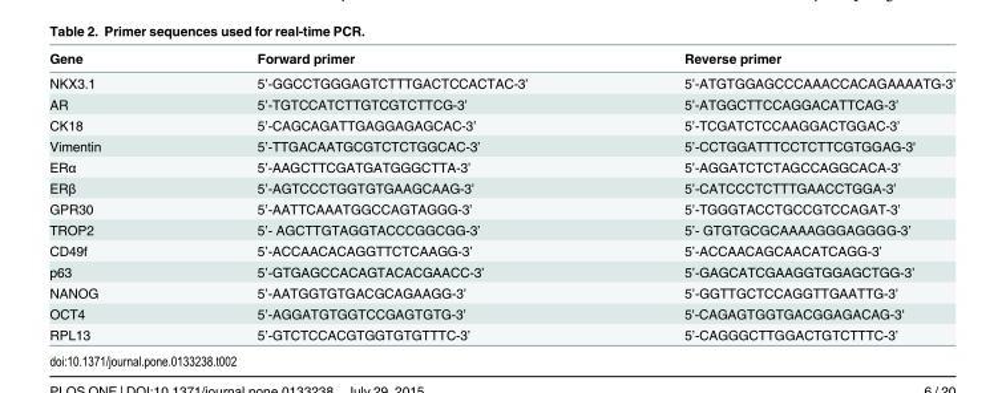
<table><thead><tr><td>Gene</td><td>Forward primer</td><td>Reverse primer</td></tr></thead><tbody><tr><td>NKX3.1</td><td>5’-GGCCTGGGAGTCTTTGACTCCACTAC-3’</td><td>5’-ATGTGGAGCCCAAACCACAGAAAATG-3’</td></tr><tr><td>AR</td><td>5’-TGTCCATCTTGTCGTCTTCG-3’</td><td>5’-ATGGCTTCCAGGACATTCAG-3’</td></tr><tr><td>CK18</td><td>5’-CAGCAGATTGAGGAGAGCAC-3’</td><td>5’-TCGATCTCCAAGGACTGGAC-3’</td></tr><tr><td>Vimentin</td><td>5’-TTGACAATGCGTCTCTGGCAC-3’</td><td>5’-CCTGGATTTCCTCTTCGTGGAG-3&#x27;</td></tr><tr><td>ERα</td><td>5’-AAGCTTCGATGATGGGCTTA-3’</td><td>5’-AGGATCTCTAGCCAGGCACA-3’</td></tr><tr><td>ERβ</td><td>5’-AGTCCCTGGTGTGAAGCAAG-3’</td><td>5’-CATCCCTCTTTGAACCTGGA-3’</td></tr><tr><td>GPR30</td><td>5’-AATTCAAATGGCCAGTAGGG-3’</td><td>5’-TGGGTACCTGCCGTCCAGAT-3’</td></tr><tr><td>TROP2</td><td>5’- AGCTTGTAGGTACCCGGCGG-3’</td><td>5’- GTGTGCGCAAAAGGGAGGGG-3’</td></tr><tr><td>CD49f</td><td>5’-ACCAACACAGGTTCTCAAGG-3’</td><td>5’-ACCAACAGCAACATCAGG-3’</td></tr><tr><td>p63</td><td>5’-GTGAGCCACAGTACACGAACC-3’</td><td>5’-GAGCATCGAAGGTGGAGCTGG-3’</td></tr><tr><td>NANOG</td><td>5’-AATGGTGTGACGCAGAAGG-3’</td><td>5’-GGTTGCTCCAGGTTGAATTG-3’</td></tr><tr><td>OCT4</td><td>5’-AGGATGTGGTCCGAGTGTG-3’</td><td>5&#x27;-CAGAGTGGTGACGGAGACAG-3&#x27;</td></tr><tr><td>RPL13</td><td>5’-GTCTCCACGTGGTGTGTTTC-3’</td><td>5’-CAGGGCTTGGACTGTCTTTC-3’</td></tr></tbody></table>